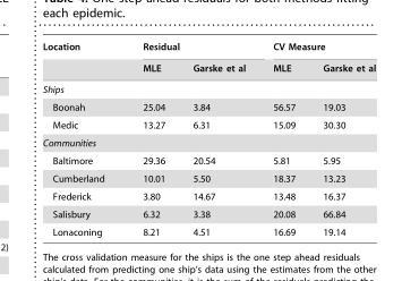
<table><thead><tr><td rowspan="2">Location</td><td colspan="2">Residual</td><td colspan="2">CV Measure</td></tr><tr><td>MLE</td><td>Garske et al</td><td>MLE</td><td>Garske et al</td></tr></thead><tbody><tr><td colspan="5">Ships</td></tr><tr><td>Boonah</td><td>25.04</td><td>3.84</td><td>56.57</td><td>19.03</td></tr><tr><td>Medic</td><td>13.27</td><td>6.31</td><td>15.09</td><td>30.30</td></tr><tr><td colspan="5">Communities</td></tr><tr><td>Baltimore</td><td>29.36</td><td>20.54</td><td>5.81</td><td>5.95</td></tr><tr><td>Cumberland</td><td>10.01</td><td>5.50</td><td>18.37</td><td>13.23</td></tr><tr><td>Frederick</td><td>3.80</td><td>14.67</td><td>13.48</td><td>16.37</td></tr><tr><td>Salisbury</td><td>6.32</td><td>3.38</td><td>20.08</td><td>66.84</td></tr><tr><td>Lonaconing</td><td>8.21</td><td>4.51</td><td>16.69</td><td>19.14</td></tr></tbody></table>